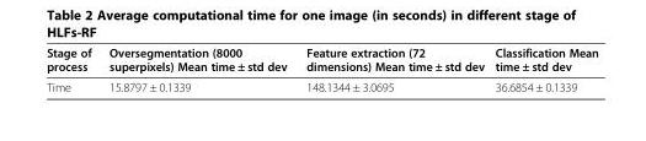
<table><thead><tr><td>Stage of process</td><td>Oversegmentation (8000 superpixels) Mean time ± std dev</td><td>Feature extraction (72 dimensions) Mean time ± std dev</td><td>Classification Mean time ± std dev</td></tr></thead><tbody><tr><td>Time</td><td>15.8797 ± 0.1339</td><td>148.1344 ± 3.0695</td><td>36.6854 ± 0.1339</td></tr></tbody></table>